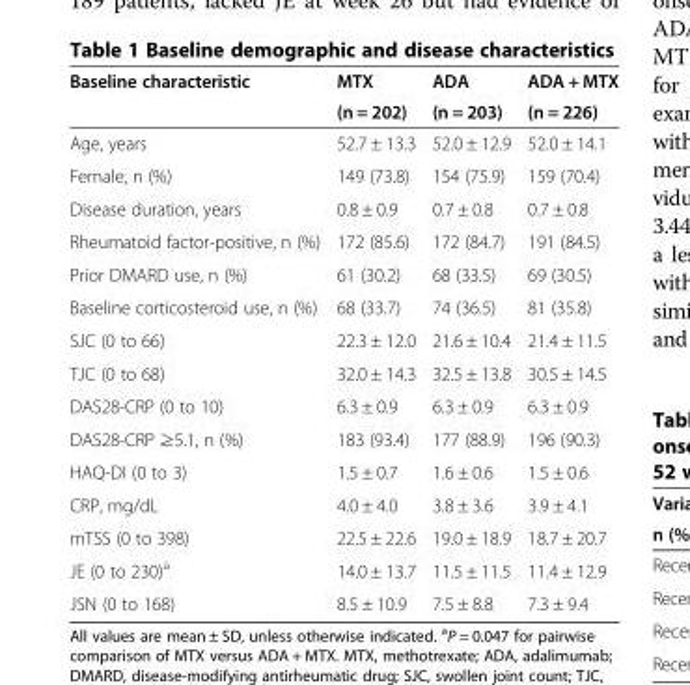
<table><thead><tr><td rowspan="2">Baseline characteristic</td><td rowspan="2">MTX (n = 202)</td><td rowspan="2">ADA (n = 203)</td><td rowspan="2">ADA + MTX (n = 226)</td></tr><tr></tr></thead><tbody><tr><td>Age, years</td><td>52.7 ± 13.3</td><td>52.0 ± 12.9</td><td>52.0 ± 14.1</td></tr><tr><td>Female, n (%)</td><td>149 (73.8)</td><td>154 (75.9)</td><td>159 (70.4)</td></tr><tr><td>Disease duration, years</td><td>0.8 ± 0.9</td><td>0.7 ± 0.8</td><td>0.7 ± 0.8</td></tr><tr><td>Rheumatoid factor-positive, n (%)</td><td>172 (85.6)</td><td>172 (84.7)</td><td>191 (84.5)</td></tr><tr><td>Prior DMARD use, n (%)</td><td>61 (30.2)</td><td>68 (33.5)</td><td>69 (30.5)</td></tr><tr><td>Baseline corticosteroid use, n (%)</td><td>68 (33.7)</td><td>74 (36.5)</td><td>81 (35.8)</td></tr><tr><td>SJC (0 to 66)</td><td>22.3 ± 12.0</td><td>21.6 ± 10.4</td><td>21.4 ± 11.5</td></tr><tr><td>TJC (0 to 68)</td><td>32.0 ± 14.3</td><td>32.5 ± 13.8</td><td>30.5 ± 14.5</td></tr><tr><td>DAS28-CRP (0 to 10)</td><td>6.3 ± 0.9</td><td>6.3 ± 0.9</td><td>6.3 ± 0.9</td></tr><tr><td>DAS28-CRP ≥5.1, n (%)</td><td>183 (93.4)</td><td>177 (88.9)</td><td>196 (90.3)</td></tr><tr><td>HAQ-DI (0 to 3)</td><td>1.5 ± 0.7</td><td>1.6 ± 0.6</td><td>1.5 ± 0.6</td></tr><tr><td>CRP, mg/dL</td><td>4.0 ± 4.0</td><td>3.8 ± 3.6</td><td>3.9 ± 4.1</td></tr><tr><td>mTSS (0 to 398)</td><td>22.5 ± 22.6</td><td>19.0 ± 18.9</td><td>18.7 ± 20.7</td></tr><tr><td>JE (0 to 230)<sup>a</sup></td><td>14.0 ± 13.7</td><td>11.5 ± 11.5</td><td>11.4 ± 12.9</td></tr><tr><td>JSN (0 to 168)</td><td>8.5 ± 10.9</td><td>7.5 ± 8.8</td><td>7.3 ± 9.4</td></tr></tbody></table>